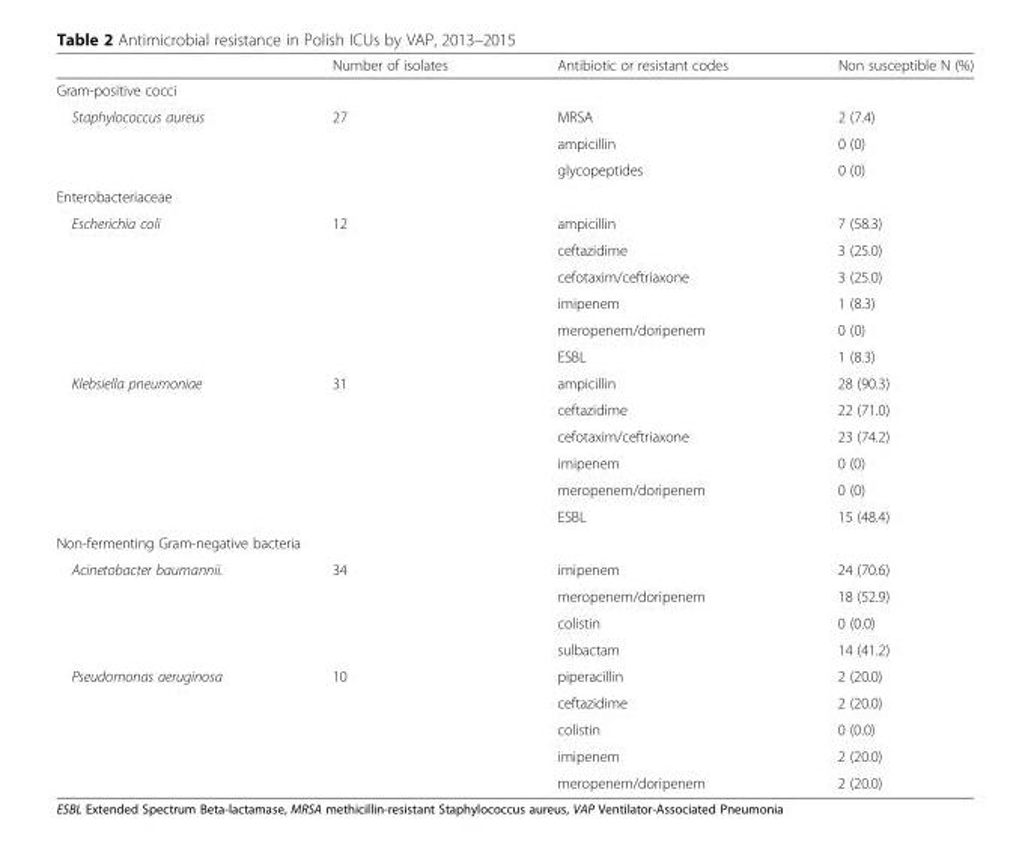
<table><thead><tr><td></td><td>Number of isolates</td><td>Antibiotic or resistant codes</td><td>Non susceptible N (%)</td></tr></thead><tbody><tr><td colspan="4">Gram-positive cocci</td></tr><tr><td rowspan="3">Staphylococcus aureus</td><td rowspan="3">27</td><td>MRSA</td><td>2 (7.4)</td></tr><tr><td>ampicillin</td><td>0 (0)</td></tr><tr><td>glycopeptides</td><td>0 (0)</td></tr><tr><td colspan="4">Enterobacteriaceae</td></tr><tr><td rowspan="6">Escherichia coli</td><td rowspan="6">12</td><td>ampicillin</td><td>7 (58.3)</td></tr><tr><td>ceftazidime</td><td>3 (25.0)</td></tr><tr><td>cefotaxim/ceftriaxone</td><td>3 (25.0)</td></tr><tr><td>imipenem</td><td>1 (8.3)</td></tr><tr><td>meropenem/doripenem</td><td>0 (0)</td></tr><tr><td>ESBL</td><td>1 (8.3)</td></tr><tr><td rowspan="6">Klebsiella pneumoniae</td><td rowspan="6">31</td><td>ampicillin</td><td>28 (90.3)</td></tr><tr><td>ceftazidime</td><td>22 (71.0)</td></tr><tr><td>cefotaxim/ceftriaxone</td><td>23 (74.2)</td></tr><tr><td>imipenem</td><td>0 (0)</td></tr><tr><td>meropenem/doripenem</td><td>0 (0)</td></tr><tr><td>ESBL</td><td>15 (48.4)</td></tr><tr><td colspan="4">Non-fermenting Gram-negative bacteria</td></tr><tr><td rowspan="4">Acinetobacter baumannii.</td><td rowspan="4">34</td><td>imipenem</td><td>24 (70.6)</td></tr><tr><td>meropenem/doripenem</td><td>18 (52.9)</td></tr><tr><td>colistin</td><td>0 (0.0)</td></tr><tr><td>sulbactam</td><td>14 (41.2)</td></tr><tr><td rowspan="5">Pseudomonas aeruginosa</td><td rowspan="5">10</td><td>piperacillin</td><td>2 (20.0)</td></tr><tr><td>ceftazidime</td><td>2 (20.0)</td></tr><tr><td>colistin</td><td>0 (0.0)</td></tr><tr><td>imipenem</td><td>2 (20.0)</td></tr><tr><td>meropenem/doripenem</td><td>2 (20.0)</td></tr></tbody></table>